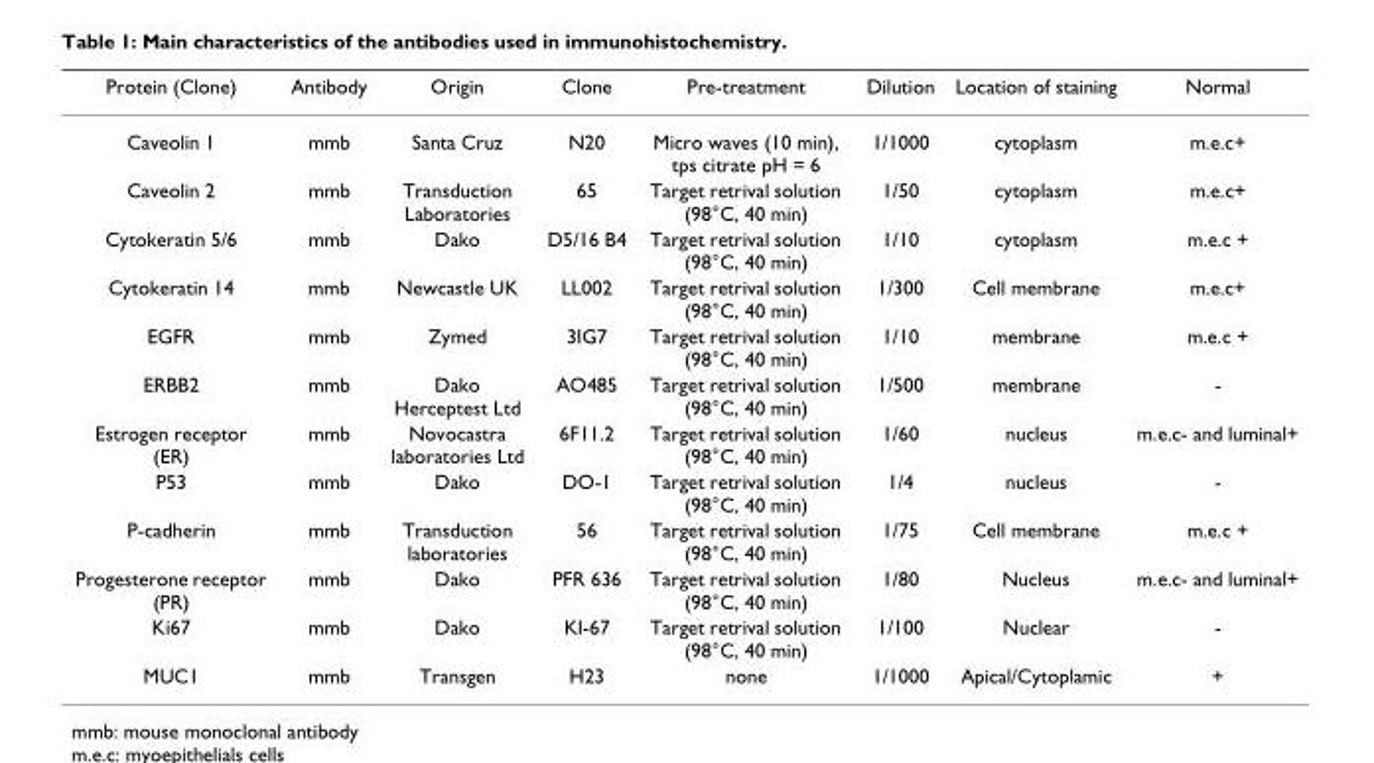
<table><thead><tr><td>Protein (Clone)</td><td>Antibody</td><td>Origin</td><td>Clone</td><td>Pre-treatment</td><td>Dilution</td><td>Location of staining</td><td>Normal</td></tr></thead><tbody><tr><td>Caveolin 1</td><td>mmb</td><td>Santa Cruz</td><td>N20</td><td>Micro waves (10 min), tps citrate pH = 6</td><td>1/1000</td><td>cytoplasm</td><td>m.e.c+</td></tr><tr><td>Caveolin 2</td><td>mmb</td><td>Transduction Laboratories</td><td>65</td><td>Target retrival solution (98°C, 40 min)</td><td>1/50</td><td>cytoplasm</td><td>m.e.c+</td></tr><tr><td>Cytokeratin 5/6</td><td>mmb</td><td>Dako</td><td>D5/16 B4</td><td>Target retrival solution (98°C, 40 min)</td><td>1/10</td><td>cytoplasm</td><td>m.e.c +</td></tr><tr><td>Cytokeratin 14</td><td>mmb</td><td>Newcastle UK</td><td>LL002</td><td>Target retrival solution (98°C, 40 min)</td><td>1/300</td><td>Cell membrane</td><td>m.e.c+</td></tr><tr><td>EGFR</td><td>mmb</td><td>Zymed</td><td>3IG7</td><td>Target retrival solution (98°C, 40 min)</td><td>1/10</td><td>membrane</td><td>m.e.c +</td></tr><tr><td>ERBB2</td><td>mmb</td><td>Dako Herceptest Ltd</td><td>AO485</td><td>Target retrival solution (98°C, 40 min)</td><td>1/500</td><td>membrane</td><td>-</td></tr><tr><td>Estrogen receptor (ER)</td><td>mmb</td><td>Novocastra laboratories Ltd</td><td>6F11.2</td><td>Target retrival solution (98°C, 40 min)</td><td>1/60</td><td>nucleus</td><td>m.e.c- and luminal+</td></tr><tr><td>P53</td><td>mmb</td><td>Dako</td><td>DO-1</td><td>Target retrival solution (98°C, 40 min)</td><td>1/4</td><td>nucleus</td><td>-</td></tr><tr><td>P-cadherin</td><td>mmb</td><td>Transduction laboratories</td><td>56</td><td>Target retrival solution (98°C, 40 min)</td><td>1/75</td><td>Cell membrane</td><td>m.e.c +</td></tr><tr><td>Progesterone receptor (PR)</td><td>mmb</td><td>Dako</td><td>PFR 636</td><td>Target retrival solution (98°C, 40 min)</td><td>1/80</td><td>Nucleus</td><td>m.e.c- and luminal+</td></tr><tr><td>Ki67</td><td>mmb</td><td>Dako</td><td>KI-67</td><td>Target retrival solution (98°C, 40 min)</td><td>1/100</td><td>Nuclear</td><td>-</td></tr><tr><td>MUC1</td><td>mmb</td><td>Transgen</td><td>H23</td><td>none</td><td>1/1000</td><td>Apical/Cytoplamic</td><td>+</td></tr></tbody></table>